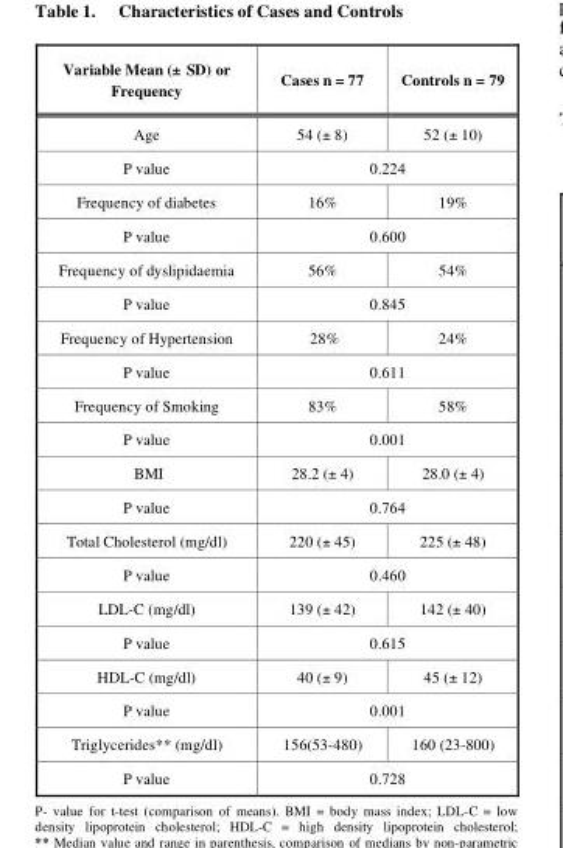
<table><tbody><tr><td>Variable Mean (± SD) or Frequency</td><td>Cases n = 77</td><td>Controls n = 79</td></tr><tr><td>Age</td><td>54 (± 8)</td><td>52 (± 10)</td></tr><tr><td>P value</td><td colspan="2">0.224</td></tr><tr><td>Frequency of diabetes</td><td>16%</td><td>19%</td></tr><tr><td>P value</td><td colspan="2">0.600</td></tr><tr><td>Frequency of dyslipidaemia</td><td>56%</td><td>54%</td></tr><tr><td>P value</td><td colspan="2">0.845</td></tr><tr><td>Frequency of Hypertension</td><td>28%</td><td>24%</td></tr><tr><td>P value</td><td colspan="2">0.611</td></tr><tr><td>Frequency of Smoking</td><td>83%</td><td>58%</td></tr><tr><td>P value</td><td colspan="2">0.001</td></tr><tr><td>BMI</td><td>28.2 (± 4)</td><td>28.0 (± 4)</td></tr><tr><td>P value</td><td colspan="2">0.764</td></tr><tr><td>Total Cholesterol (mg/dl)</td><td>220 (± 45)</td><td>225 (± 48)</td></tr><tr><td>P value</td><td colspan="2">0.460</td></tr><tr><td>LDL-C (mg/dl)</td><td>139 (± 42)</td><td>142 (± 40)</td></tr><tr><td>P value</td><td colspan="2">0.615</td></tr><tr><td>HDL-C (mg/dl)</td><td>40 (± 9)</td><td>45 (± 12)</td></tr><tr><td>P value</td><td colspan="2">0.001</td></tr><tr><td>Triglycerides** (mg/dl)</td><td>156(53-480)</td><td>160 (23-800)</td></tr><tr><td>P value</td><td colspan="2">0.728</td></tr></tbody></table>